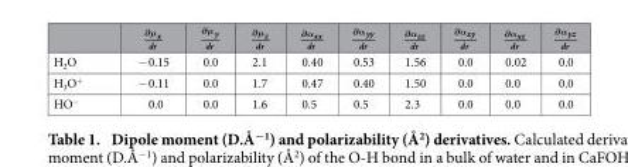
<table><tbody><tr><td>H<sub>2</sub>O</td><td>− 0.15</td><td>0.0</td><td>2.1</td><td>0.40</td><td>0.53</td><td>1.56</td><td>0.0</td><td>0.02</td><td>0.0</td></tr><tr><td>H<sub>3</sub>O<sup>+</sup></td><td>− 0.11</td><td>0.0</td><td>1.7</td><td>0.47</td><td>0.40</td><td>1.50</td><td>0.0</td><td>0.0</td><td>0.0</td></tr><tr><td>HO<sup>−</sup></td><td>0.0</td><td>0.0</td><td>1.6</td><td>0.5</td><td>0.5</td><td>2.3</td><td>0.0</td><td>0.0</td><td>0.0</td></tr></tbody></table>